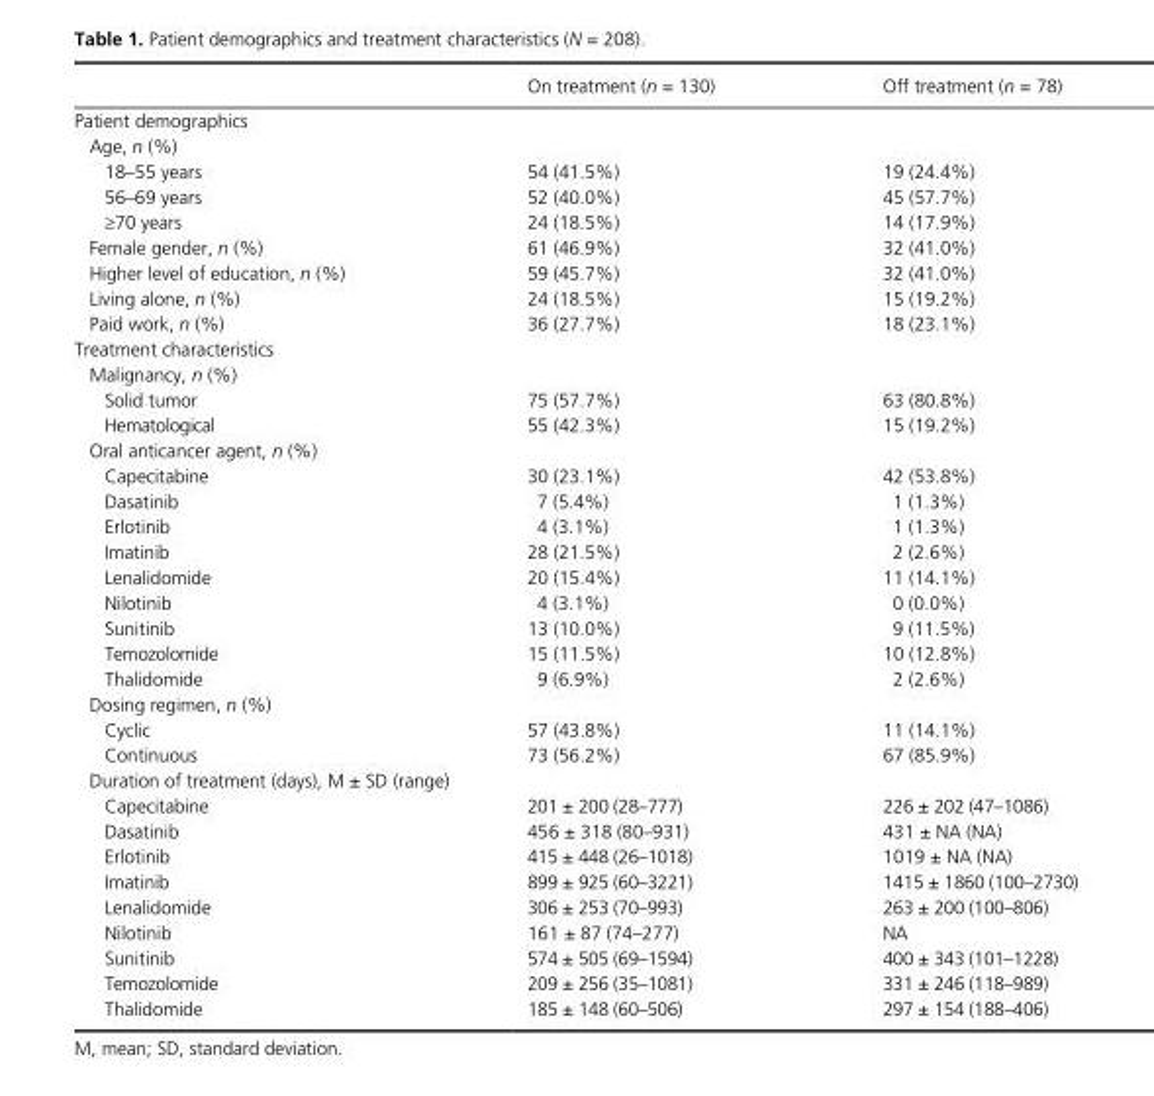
<table><thead><tr><td></td><td>On treatment (n = 130)</td><td>Off treatment (n = 78)</td></tr></thead><tbody><tr><td colspan="3">Patient demographics</td></tr><tr><td colspan="3">Age, n (%)</td></tr><tr><td>18–55 years</td><td>54 (41.5%)</td><td>19 (24.4%)</td></tr><tr><td>56–69 years</td><td>52 (40.0%)</td><td>45 (57.7%)</td></tr><tr><td>≥70 years</td><td>24 (18.5%)</td><td>14 (17.9%)</td></tr><tr><td>Female gender, n (%)</td><td>61 (46.9%)</td><td>32 (41.0%)</td></tr><tr><td>Higher level of education, n (%)</td><td>59 (45.7%)</td><td>32 (41.0%)</td></tr><tr><td>Living alone, n (%)</td><td>24 (18.5%)</td><td>15 (19.2%)</td></tr><tr><td>Paid work, n (%)</td><td>36 (27.7%)</td><td>18 (23.1%)</td></tr><tr><td colspan="3">Treatment characteristics</td></tr><tr><td colspan="3">Malignancy, n (%)</td></tr><tr><td>Solid tumor</td><td>75 (57.7%)</td><td>63 (80.8%)</td></tr><tr><td>Hematological</td><td>55 (42.3%)</td><td>15 (19.2%)</td></tr><tr><td colspan="3">Oral anticancer agent, n (%)</td></tr><tr><td>Capecitabine</td><td>30 (23.1%)</td><td>42 (53.8%)</td></tr><tr><td>Dasatinib</td><td>7 (5.4%)</td><td>1 (1.3%)</td></tr><tr><td>Erlotinib</td><td>4 (3.1%)</td><td>1 (1.3%)</td></tr><tr><td>Imatinib</td><td>28 (21.5%)</td><td>2 (2.6%)</td></tr><tr><td>Lenalidomide</td><td>20 (15.4%)</td><td>11 (14.1%)</td></tr><tr><td>Nilotinib</td><td>4 (3.1%)</td><td>0 (0.0%)</td></tr><tr><td>Sunitinib</td><td>13 (10.0%)</td><td>9 (11.5%)</td></tr><tr><td>Temozolomide</td><td>15 (11.5%)</td><td>10 (12.8%)</td></tr><tr><td>Thalidomide</td><td>9 (6.9%)</td><td>2 (2.6%)</td></tr><tr><td colspan="3">Dosing regimen, n (%)</td></tr><tr><td>Cyclic</td><td>57 (43.8%)</td><td>11 (14.1%)</td></tr><tr><td>Continuous</td><td>73 (56.2%)</td><td>67 (85.9%)</td></tr><tr><td colspan="3">Duration of treatment (days), M ± SD (range)</td></tr><tr><td>Capecitabine</td><td>201 ± 200 (28–777)</td><td>226 ± 202 (47–1086)</td></tr><tr><td>Dasatinib</td><td>456 ± 318 (80–931)</td><td>431 ± NA (NA)</td></tr><tr><td>Erlotinib</td><td>415 ± 448 (26–1018)</td><td>1019 ± NA (NA)</td></tr><tr><td>Imatinib</td><td>899 ± 925 (60–3221)</td><td>1415 ± 1860 (100–2730)</td></tr><tr><td>Lenalidomide</td><td>306 ± 253 (70–993)</td><td>263 ± 200 (100–806)</td></tr><tr><td>Nilotinib</td><td>161 ± 87 (74–277)</td><td>NA</td></tr><tr><td>Sunitinib</td><td>574 ± 505 (69–1594)</td><td>400 ± 343 (101–1228)</td></tr><tr><td>Temozolomide</td><td>209 ± 256 (35–1081)</td><td>331 ± 246 (118–989)</td></tr><tr><td>Thalidomide</td><td>185 ± 148 (60–506)</td><td>297 ± 154 (188–406)</td></tr></tbody></table>